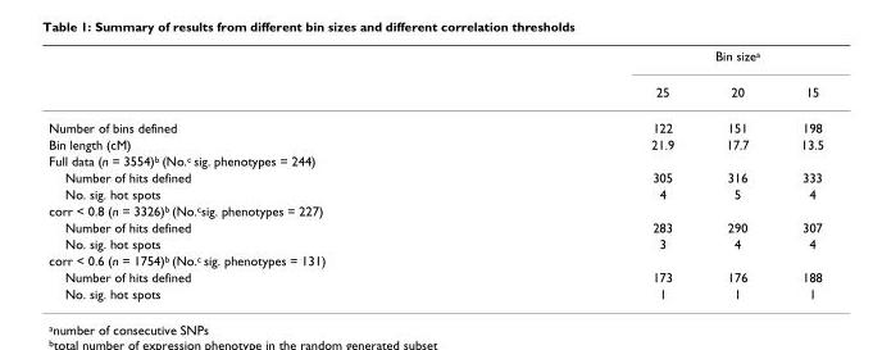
<table><thead><tr><td rowspan="2"></td><td colspan="3">Bin size<sup>a</sup></td></tr><tr><td>25</td><td>20</td><td>15</td></tr></thead><tbody><tr><td>Number of bins defined</td><td>122</td><td>151</td><td>198</td></tr><tr><td>Bin length (cM)</td><td>21.9</td><td>17.7</td><td>13.5</td></tr><tr><td colspan="4">Full data (n = 3554)<sup>b</sup> (No.<sup>c</sup> sig. phenotypes = 244)</td></tr><tr><td>Number of hits defined</td><td>305</td><td>316</td><td>333</td></tr><tr><td>No. sig. hot spots</td><td>4</td><td>5</td><td>4</td></tr><tr><td colspan="4">corr &lt; 0.8 (n = 3326)<sup>b</sup> (No.<sup>c</sup>sig. phenotypes = 227)</td></tr><tr><td>Number of hits defined</td><td>283</td><td>290</td><td>307</td></tr><tr><td>No. sig. hot spots</td><td>3</td><td>4</td><td>4</td></tr><tr><td colspan="4">corr &lt; 0.6 (n = 1754)<sup>b</sup> (No.<sup>c</sup> sig. phenotypes = 131)</td></tr><tr><td>Number of hits defined</td><td>173</td><td>176</td><td>188</td></tr><tr><td>No. sig. hot spots</td><td>1</td><td>1</td><td>1</td></tr></tbody></table>